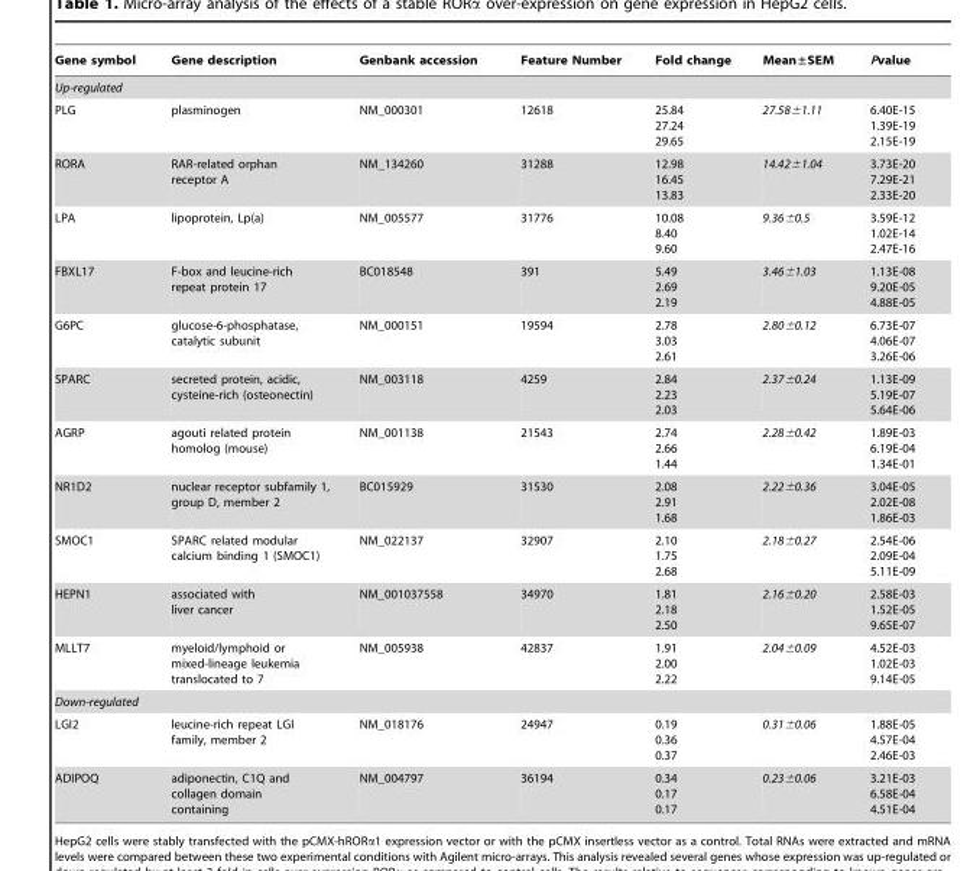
<table><thead><tr><td>Gene symbol</td><td>Gene description</td><td>Genbank accession</td><td>Feature Number</td><td>Fold change</td><td>Mean±SEM</td><td>Pvalue</td></tr></thead><tbody><tr><td colspan="7">Up-regulated</td></tr><tr><td>PLG</td><td>plasminogen</td><td>NM_000301</td><td>12618</td><td>25.84 27.24 29.65</td><td>27.58±1.11</td><td>6.40E-15 1.39E-19 2.15E-19</td></tr><tr><td>RORA</td><td>RAR-related orphan receptor A</td><td>NM_134260</td><td>31288</td><td>12.98 16.45 13.83</td><td>14.42±1.04</td><td>3.73E-20 7.29E-21 2.33E-20</td></tr><tr><td>LPA</td><td>lipoprotein, Lp(a)</td><td>NM_005577</td><td>31776</td><td>10.08 8.40 9.60</td><td>9.36±0.5</td><td>3.59E-12 1.02E-14 2.47E-16</td></tr><tr><td>FBXL17</td><td>F-box and leucine-rich repeat protein 17</td><td>BC018548</td><td>391</td><td>5.49 2.69 2.19</td><td>3.46±1.03</td><td>1.13E-08 9.20E-05 4.88E-05</td></tr><tr><td>G6PC</td><td>glucose-6-phosphatase, catalytic subunit</td><td>NM_000151</td><td>19594</td><td>2.78 3.03 2.61</td><td>2.80±0.12</td><td>6.73E-07 4.06E-07 3.26E-06</td></tr><tr><td>SPARC</td><td>secreted protein, acidic, cysteine-rich (osteonectin)</td><td>NM_003118</td><td>4259</td><td>2.84 2.23 2.03</td><td>2.37±0.24</td><td>1.13E-09 5.19E-07 5.64E-06</td></tr><tr><td>AGRP</td><td>agouti related protein homolog (mouse)</td><td>NM_001138</td><td>21543</td><td>2.74 2.66 1.44</td><td>2.28±0.42</td><td>1.89E-03 6.19E-04 1.34E-01</td></tr><tr><td>NR1D2</td><td>nuclear receptor subfamily 1, group D, member 2</td><td>BC015929</td><td>31530</td><td>2.08 2.91 1.68</td><td>2.22±0.36</td><td>3.04E-05 2.02E-08 1.86E-03</td></tr><tr><td>SMOC1</td><td>SPARC related modular calcium binding 1 (SMOC1)</td><td>NM_022137</td><td>32907</td><td>2.10 1.75 2.68</td><td>2.18±0.27</td><td>2.54E-06 2.09E-04 5.11E-09</td></tr><tr><td>HEPN1</td><td>associated with liver cancer</td><td>NM_001037558</td><td>34970</td><td>1.81 2.18 2.50</td><td>2.16±0.20</td><td>2.58E-03 1.52E-05 9.65E-07</td></tr><tr><td>MLLT7</td><td>myeloid/lymphoid or mixed-lineage leukemia translocated to 7</td><td>NM_005938</td><td>42837</td><td>1.91 2.00 2.22</td><td>2.04±0.09</td><td>4.52E-03 1.02E-03 9.14E-05</td></tr><tr><td colspan="7">Down-regulated</td></tr><tr><td>LGI2</td><td>leucine-rich repeat LGI family, member 2</td><td>NM_018176</td><td>24947</td><td>0.19 0.36 0.37</td><td>0.31±0.06</td><td>1.88E-05 4.57E-04 2.46E-03</td></tr><tr><td>ADIPOQ</td><td>adiponectin, C1Q and collagen domain containing</td><td>NM_004797</td><td>36194</td><td>0.34 0.17 0.17</td><td>0.23±0.06</td><td>3.21E-03 6.58E-04 4.51E-04</td></tr></tbody></table>